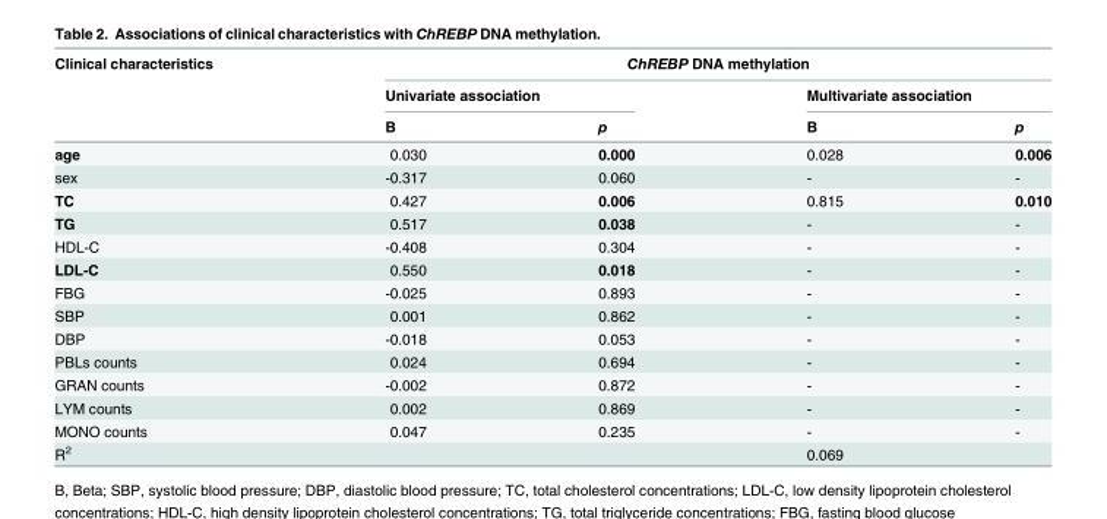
<table><thead><tr><td rowspan="3">Clinical characteristics</td><td colspan="4">ChREBP DNA methylation</td></tr><tr><td colspan="2">Univariate association</td><td colspan="2">Multivariate association</td></tr><tr><td>B</td><td>p</td><td>B</td><td>p</td></tr></thead><tbody><tr><td>age</td><td>0.030</td><td>0.000</td><td>0.028</td><td>0.006</td></tr><tr><td>sex</td><td>-0.317</td><td>0.060</td><td>-</td><td>-</td></tr><tr><td>TC</td><td>0.427</td><td>0.006</td><td>0.815</td><td>0.010</td></tr><tr><td>TG</td><td>0.517</td><td>0.038</td><td>-</td><td>-</td></tr><tr><td>HDL-C</td><td>-0.408</td><td>0.304</td><td>-</td><td>-</td></tr><tr><td>LDL-C</td><td>0.550</td><td>0.018</td><td>-</td><td>-</td></tr><tr><td>FBG</td><td>-0.025</td><td>0.893</td><td>-</td><td>-</td></tr><tr><td>SBP</td><td>0.001</td><td>0.862</td><td>-</td><td>-</td></tr><tr><td>DBP</td><td>-0.018</td><td>0.053</td><td>-</td><td>-</td></tr><tr><td>PBLs counts</td><td>0.024</td><td>0.694</td><td>-</td><td>-</td></tr><tr><td>GRAN counts</td><td>-0.002</td><td>0.872</td><td>-</td><td>-</td></tr><tr><td>LYM counts</td><td>0.002</td><td>0.869</td><td>-</td><td>-</td></tr><tr><td>MONO counts</td><td>0.047</td><td>0.235</td><td>-</td><td>-</td></tr><tr><td>R<sup>2</sup></td><td></td><td></td><td>0.069</td><td></td></tr></tbody></table>